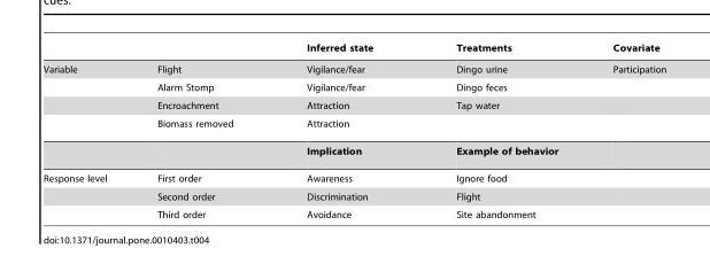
<table><thead><tr><td></td><td></td><td>Inferred state</td><td>Treatments</td><td>Covariate</td></tr></thead><tbody><tr><td rowspan="5">Variable</td><td>Flight</td><td>Vigilance/fear</td><td>Dingo urine</td><td>Participation</td></tr><tr><td>Alarm Stomp</td><td>Vigilance/fear</td><td>Dingo feces</td><td></td></tr><tr><td>Encroachment</td><td>Attraction</td><td>Tap water</td><td></td></tr><tr><td>Biomass removed</td><td>Attraction</td><td></td><td></td></tr><tr><td></td><td>Implication</td><td>Example of behavior</td><td></td></tr><tr><td rowspan="3">Response level</td><td>First order</td><td>Awareness</td><td>Ignore food</td><td></td></tr><tr><td>Second order</td><td>Discrimination</td><td>Flight</td><td></td></tr><tr><td>Third order</td><td>Avoidance</td><td>Site abandonment</td><td></td></tr></tbody></table>